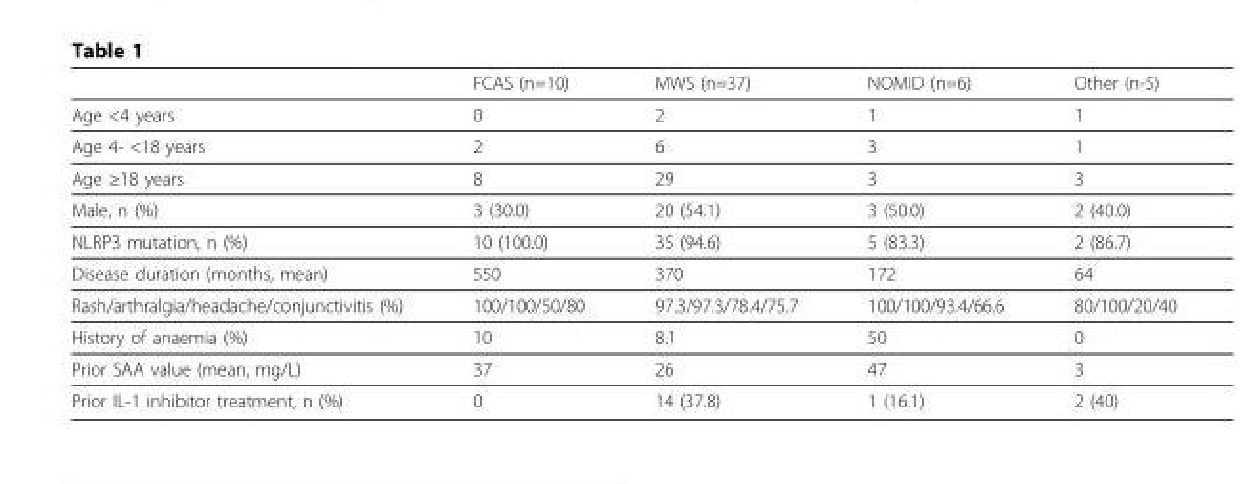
<table><thead><tr><td></td><td>FCAS (n=10)</td><td>MWS (n=37)</td><td>NOMID (n=6)</td><td>Other (n-5)</td></tr></thead><tbody><tr><td>Age &lt;4 years</td><td>0</td><td>2</td><td>1</td><td>1</td></tr><tr><td>Age 4- &lt;18 years</td><td>2</td><td>6</td><td>3</td><td>1</td></tr><tr><td>Age ≥18 years</td><td>8</td><td>29</td><td>3</td><td>3</td></tr><tr><td>Male, n (%)</td><td>3 (30.0)</td><td>20 (54.1)</td><td>3 (50.0)</td><td>2 (40.0)</td></tr><tr><td>NLRP3 mutation, n (%)</td><td>10 (100.0)</td><td>35 (94.6)</td><td>5 (83.3)</td><td>2 (86.7)</td></tr><tr><td>Disease duration (months, mean)</td><td>550</td><td>370</td><td>172</td><td>64</td></tr><tr><td>Rash/arthralgia/headache/conjunctivitis (%)</td><td>100/100/50/80</td><td>97.3/97.3/78.4/75.7</td><td>100/100/93.4/66.6</td><td>80/100/20/40</td></tr><tr><td>History of anaemia (%)</td><td>10</td><td>8.1</td><td>50</td><td>0</td></tr><tr><td>Prior SAA value (mean, mg/L)</td><td>37</td><td>26</td><td>47</td><td>3</td></tr><tr><td>Prior IL-1 inhibitor treatment, n (%)</td><td>0</td><td>14 (37.8)</td><td>1 (16.1)</td><td>2 (40)</td></tr></tbody></table>